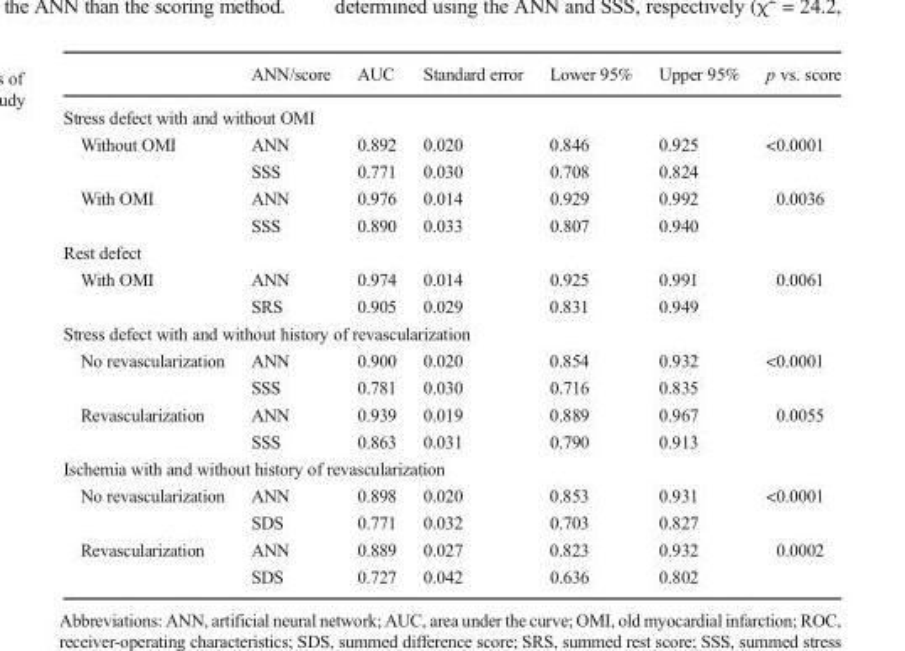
<table><thead><tr><td></td><td>ANN/score</td><td>AUC</td><td>Standard error</td><td>Lower 95%</td><td>Upper 95%</td><td>p vs. score</td></tr></thead><tbody><tr><td colspan="7">Stress defect with and without OMI</td></tr><tr><td rowspan="2">Without OMI</td><td>ANN</td><td>0.892</td><td>0.020</td><td>0.846</td><td>0.925</td><td>&lt;0.0001</td></tr><tr><td>SSS</td><td>0.771</td><td>0.030</td><td>0.708</td><td>0.824</td><td></td></tr><tr><td rowspan="2">With OMI</td><td>ANN</td><td>0.976</td><td>0.014</td><td>0.929</td><td>0.992</td><td>0.0036</td></tr><tr><td>SSS</td><td>0.890</td><td>0.033</td><td>0.807</td><td>0.940</td><td></td></tr><tr><td colspan="7">Rest defect</td></tr><tr><td rowspan="2">With OMI</td><td>ANN</td><td>0.974</td><td>0.014</td><td>0.925</td><td>0.991</td><td>0.0061</td></tr><tr><td>SRS</td><td>0.905</td><td>0.029</td><td>0.831</td><td>0.949</td><td></td></tr><tr><td colspan="7">Stress defect with and without history of revascularization</td></tr><tr><td rowspan="2">No revascularization</td><td>ANN</td><td>0.900</td><td>0.020</td><td>0.854</td><td>0.932</td><td>&lt;0.0001</td></tr><tr><td>SSS</td><td>0.781</td><td>0.030</td><td>0.716</td><td>0.835</td><td></td></tr><tr><td rowspan="2">Revascularization</td><td>ANN</td><td>0.939</td><td>0.019</td><td>0.889</td><td>0.967</td><td>0.0055</td></tr><tr><td>SSS</td><td>0.863</td><td>0.031</td><td>0.790</td><td>0.913</td><td></td></tr><tr><td colspan="7">Ischemia with and without history of revascularization</td></tr><tr><td rowspan="2">No revascularization</td><td>ANN</td><td>0.898</td><td>0.020</td><td>0.853</td><td>0.931</td><td>&lt;0.0001</td></tr><tr><td>SDS</td><td>0.771</td><td>0.032</td><td>0.703</td><td>0.827</td><td></td></tr><tr><td rowspan="2">Revascularization</td><td>ANN</td><td>0.889</td><td>0.027</td><td>0.823</td><td>0.932</td><td>0.0002</td></tr><tr><td>SDS</td><td>0.727</td><td>0.042</td><td>0.636</td><td>0.802</td><td></td></tr></tbody></table>